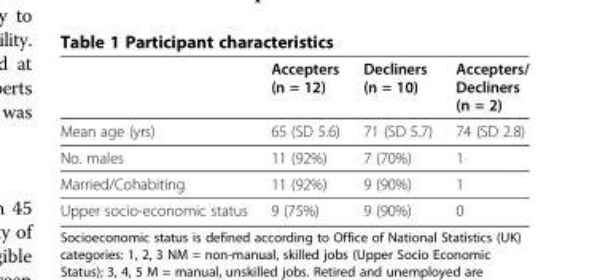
<table><thead><tr><td></td><td>Accepters (n = 12)</td><td>Decliners (n = 10)</td><td>Accepters/ Decliners (n = 2)</td></tr></thead><tbody><tr><td>Mean age (yrs)</td><td>65 (SD 5.6)</td><td>71 (SD 5.7)</td><td>74 (SD 2.8)</td></tr><tr><td>No. males</td><td>11 (92%)</td><td>7 (70%)</td><td>1</td></tr><tr><td>Married/Cohabiting</td><td>11 (92%)</td><td>9 (90%)</td><td>1</td></tr><tr><td>Upper socio-economic status</td><td>9 (75%)</td><td>9 (90%)</td><td>0</td></tr></tbody></table>